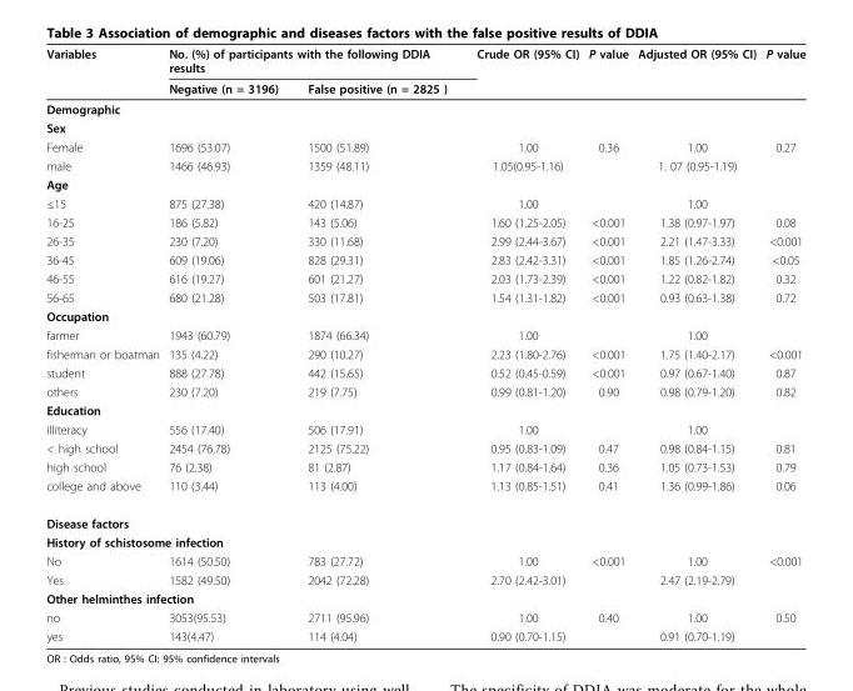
<table><thead><tr><td rowspan="2">Variables</td><td colspan="2">No. (%) of participants with the following DDIA results</td><td rowspan="2">Crude OR (95% CI)</td><td rowspan="2">P value</td><td rowspan="2">Adjusted OR (95% CI)</td><td rowspan="2">P value</td></tr><tr><td>Negative (n = 3196)</td><td>False positive (n = 2825 )</td></tr></thead><tbody><tr><td colspan="7">Demographic</td></tr><tr><td colspan="7">Sex</td></tr><tr><td>Female</td><td>1696 (53.07)</td><td>1500 (51.89)</td><td>1.00</td><td>0.36</td><td>1.00</td><td>0.27</td></tr><tr><td>male</td><td>1466 (46.93)</td><td>1359 (48.11)</td><td>1.05(0.95-1.16)</td><td></td><td>1. 07 (0.95-1.19)</td><td></td></tr><tr><td colspan="7">Age</td></tr><tr><td>≤15</td><td>875 (27.38)</td><td>420 (14.87)</td><td>1.00</td><td></td><td>1.00</td><td></td></tr><tr><td>16-25</td><td>186 (5.82)</td><td>143 (5.06)</td><td>1.60 (1.25-2.05)</td><td>&lt;0.001</td><td>1.38 (0.97-1.97)</td><td>0.08</td></tr><tr><td>26-35</td><td>230 (7.20)</td><td>330 (11.68)</td><td>2.99 (2.44-3.67)</td><td>&lt;0.001</td><td>2.21 (1.47-3.33)</td><td>&lt;0.001</td></tr><tr><td>36-45</td><td>609 (19.06)</td><td>828 (29.31)</td><td>2.83 (2.42-3.31)</td><td>&lt;0.001</td><td>1.85 (1.26-2.74)</td><td>&lt;0.05</td></tr><tr><td>46-55</td><td>616 (19.27)</td><td>601 (21.27)</td><td>2.03 (1.73-2.39)</td><td>&lt;0.001</td><td>1.22 (0.82-1.82)</td><td>0.32</td></tr><tr><td>56-65</td><td>680 (21.28)</td><td>503 (17.81)</td><td>1.54 (1.31-1.82)</td><td>&lt;0.001</td><td>0.93 (0.63-1.38)</td><td>0.72</td></tr><tr><td colspan="7">Occupation</td></tr><tr><td>farmer</td><td>1943 (60.79)</td><td>1874 (66.34)</td><td>1.00</td><td></td><td>1.00</td><td></td></tr><tr><td>fisherman or boatman</td><td>135 (4.22)</td><td>290 (10.27)</td><td>2.23 (1.80-2.76)</td><td>&lt;0.001</td><td>1.75 (1.40-2.17)</td><td>&lt;0.001</td></tr><tr><td>student</td><td>888 (27.78)</td><td>442 (15.65)</td><td>0.52 (0.45-0.59)</td><td>&lt;0.001</td><td>0.97 (0.67-1.40)</td><td>0.87</td></tr><tr><td>others</td><td>230 (7.20)</td><td>219 (7.75)</td><td>0.99 (0.81-1.20)</td><td>0.90</td><td>0.98 (0.79-1.20)</td><td>0.82</td></tr><tr><td colspan="7">Education</td></tr><tr><td>illiteracy</td><td>556 (17.40)</td><td>506 (17.91)</td><td>1.00</td><td></td><td>1.00</td><td></td></tr><tr><td>&lt; high school</td><td>2454 (76.78)</td><td>2125 (75.22)</td><td>0.95 (0.83-1.09)</td><td>0.47</td><td>0.98 (0.84-1.15)</td><td>0.81</td></tr><tr><td>high school</td><td>76 (2.38)</td><td>81 (2.87)</td><td>1.17 (0.84-1.64)</td><td>0.36</td><td>1.05 (0.73-1.53)</td><td>0.79</td></tr><tr><td>college and above</td><td>110 (3.44)</td><td>113 (4.00)</td><td>1.13 (0.85-1.51)</td><td>0.41</td><td>1.36 (0.99-1.86)</td><td>0.06</td></tr><tr><td colspan="7">Disease factors</td></tr><tr><td colspan="7">History of schistosome infection</td></tr><tr><td>No</td><td>1614 (50.50)</td><td>783 (27.72)</td><td>1.00</td><td>&lt;0.001</td><td>1.00</td><td>&lt;0.001</td></tr><tr><td>Yes</td><td>1582 (49.50)</td><td>2042 (72.28)</td><td>2.70 (2.42-3.01)</td><td></td><td>2.47 (2.19-2.79)</td><td></td></tr><tr><td colspan="7">Other helminthes infection</td></tr><tr><td>no</td><td>3053(95.53)</td><td>2711 (95.96)</td><td>1.00</td><td>0.40</td><td>1.00</td><td>0.50</td></tr><tr><td>yes</td><td>143(4.47)</td><td>114 (4.04)</td><td>0.90 (0.70-1.15)</td><td></td><td>0.91 (0.70-1.19)</td><td></td></tr></tbody></table>